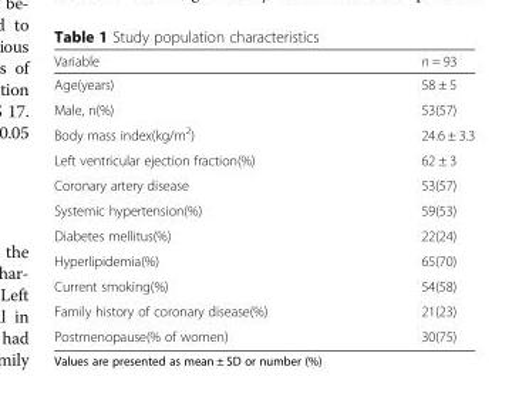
<table><thead><tr><td>Variable</td><td>n = 93</td></tr></thead><tbody><tr><td>Age(years)</td><td>58 ± 5</td></tr><tr><td>Male, n(%)</td><td>53(57)</td></tr><tr><td>Body mass index(kg/m<sup>2</sup>)</td><td>24.6 ± 3.3</td></tr><tr><td>Left ventricular ejection fraction(%)</td><td>62 ± 3</td></tr><tr><td>Coronary artery disease</td><td>53(57)</td></tr><tr><td>Systemic hypertension(%)</td><td>59(53)</td></tr><tr><td>Diabetes mellitus(%)</td><td>22(24)</td></tr><tr><td>Hyperlipidemia(%)</td><td>65(70)</td></tr><tr><td>Current smoking(%)</td><td>54(58)</td></tr><tr><td>Family history of coronary disease(%)</td><td>21(23)</td></tr><tr><td>Postmenopause(% of women)</td><td>30(75)</td></tr></tbody></table>